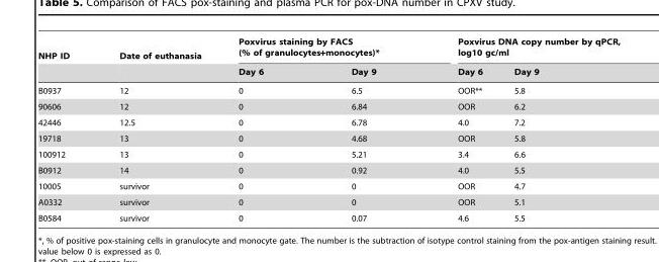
<table><thead><tr><td rowspan="2">NHP ID</td><td rowspan="2">Date of euthanasia</td><td colspan="2">Poxvirus staining by FACS (% of granulocytes+monocytes)*</td><td colspan="2">Poxvirus DNA copy number by qPCR, log10 gc/ml</td></tr><tr><td>Day 6</td><td>Day 9</td><td>Day 6</td><td>Day 9</td></tr></thead><tbody><tr><td>B0937</td><td>12</td><td>0</td><td>6.5</td><td>OOR**</td><td>5.8</td></tr><tr><td>90606</td><td>12</td><td>0</td><td>6.84</td><td>OOR</td><td>6.2</td></tr><tr><td>42446</td><td>12.5</td><td>0</td><td>6.78</td><td>4.0</td><td>7.2</td></tr><tr><td>19718</td><td>13</td><td>0</td><td>4.68</td><td>OOR</td><td>5.8</td></tr><tr><td>100912</td><td>13</td><td>0</td><td>5.21</td><td>3.4</td><td>6.6</td></tr><tr><td>B0912</td><td>14</td><td>0</td><td>0.92</td><td>4.0</td><td>5.5</td></tr><tr><td>10005</td><td>survivor</td><td>0</td><td>0</td><td>OOR</td><td>4.7</td></tr><tr><td>A0332</td><td>survivor</td><td>0</td><td>0</td><td>OOR</td><td>5.1</td></tr><tr><td>B0584</td><td>survivor</td><td>0</td><td>0.07</td><td>4.6</td><td>5.5</td></tr></tbody></table>